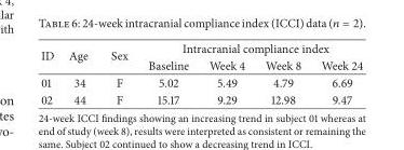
<table><thead><tr><td rowspan="2">ID</td><td rowspan="2">Age</td><td rowspan="2">Sex</td><td colspan="4">Intracranial compliance index</td></tr><tr><td>Baseline</td><td>Week 4</td><td>Week 8</td><td>Week 24</td></tr></thead><tbody><tr><td>01</td><td>34</td><td>F</td><td>5.02</td><td>5.49</td><td>4.79</td><td>6.69</td></tr><tr><td>02</td><td>44</td><td>F</td><td>15.17</td><td>9.29</td><td>12.98</td><td>9.47</td></tr></tbody></table>